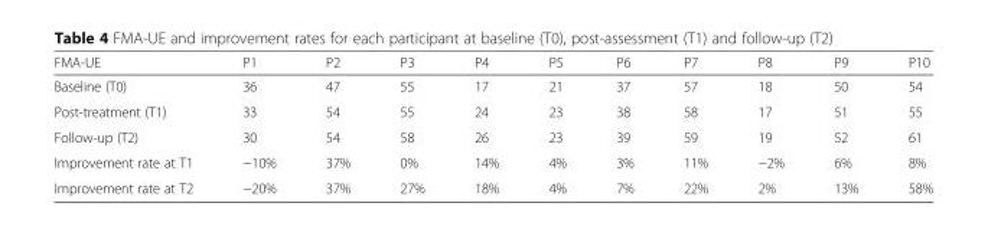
<table><thead><tr><td>FMA-UE</td><td>P1</td><td>P2</td><td>P3</td><td>P4</td><td>P5</td><td>P6</td><td>P7</td><td>P8</td><td>P9</td><td>P10</td></tr></thead><tbody><tr><td>Baseline (T0)</td><td>36</td><td>47</td><td>55</td><td>17</td><td>21</td><td>37</td><td>57</td><td>18</td><td>50</td><td>54</td></tr><tr><td>Post-treatment (T1)</td><td>33</td><td>54</td><td>55</td><td>24</td><td>23</td><td>38</td><td>58</td><td>17</td><td>51</td><td>55</td></tr><tr><td>Follow-up (T2)</td><td>30</td><td>54</td><td>58</td><td>26</td><td>23</td><td>39</td><td>59</td><td>19</td><td>52</td><td>61</td></tr><tr><td>Improvement rate at T1</td><td>−10%</td><td>37%</td><td>0%</td><td>14%</td><td>4%</td><td>3%</td><td>11%</td><td>−2%</td><td>6%</td><td>8%</td></tr><tr><td>Improvement rate at T2</td><td>−20%</td><td>37%</td><td>27%</td><td>18%</td><td>4%</td><td>7%</td><td>22%</td><td>2%</td><td>13%</td><td>58%</td></tr></tbody></table>